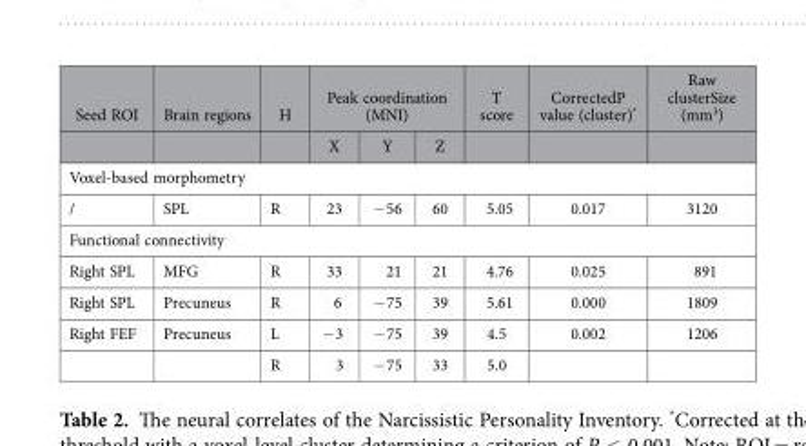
<table><thead><tr><td rowspan="2">Seed ROI</td><td rowspan="2">Brain regions</td><td rowspan="2">H</td><td colspan="3">Peak coordination (MNI)</td><td rowspan="2">T score</td><td rowspan="2">CorrectedP value (cluster)*</td><td rowspan="2">Raw clusterSize (mm<sup>3</sup>)</td></tr><tr><td>X</td><td>Y</td><td>Z</td></tr></thead><tbody><tr><td colspan="9">Voxel-based morphometry</td></tr><tr><td>/</td><td>SPL</td><td>R</td><td>23</td><td>− 56</td><td>60</td><td>5.05</td><td>0.017</td><td>3120</td></tr><tr><td colspan="9">Functional connectivity</td></tr><tr><td>Right SPL</td><td>MFG</td><td>R</td><td>33</td><td>21</td><td>21</td><td>4.76</td><td>0.025</td><td>891</td></tr><tr><td>Right SPL</td><td>Precuneus</td><td>R</td><td>6</td><td>− 75</td><td>39</td><td>5.61</td><td>0.000</td><td>1809</td></tr><tr><td rowspan="2">Right FEF</td><td>Precuneus</td><td>L</td><td>− 3</td><td>− 75</td><td>39</td><td>4.5</td><td>0.002</td><td>1206</td></tr><tr><td></td><td>R</td><td>3</td><td>− 75</td><td>33</td><td>5.0</td><td></td><td></td></tr></tbody></table>